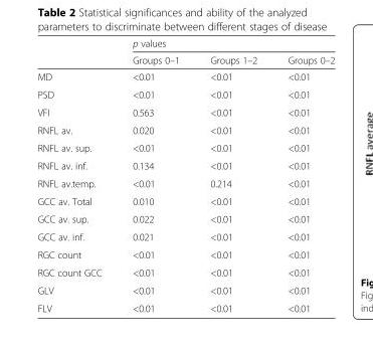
<table><thead><tr><td rowspan="2"></td><td colspan="3">p values</td></tr><tr><td>Groups 0–1</td><td>Groups 1–2</td><td>Groups 0–2</td></tr></thead><tbody><tr><td>MD</td><td>&lt;0.01</td><td>&lt;0.01</td><td>&lt;0.01</td></tr><tr><td>PSD</td><td>&lt;0.01</td><td>&lt;0.01</td><td>&lt;0.01</td></tr><tr><td>VFI</td><td>0.563</td><td>&lt;0.01</td><td>&lt;0.01</td></tr><tr><td>RNFL av.</td><td>0.020</td><td>&lt;0.01</td><td>&lt;0.01</td></tr><tr><td>RNFL av. sup.</td><td>&lt;0.01</td><td>&lt;0.01</td><td>&lt;0.01</td></tr><tr><td>RNFL av. inf.</td><td>0.134</td><td>&lt;0.01</td><td>&lt;0.01</td></tr><tr><td>RNFL av.temp.</td><td>&lt;0.01</td><td>0.214</td><td>&lt;0.01</td></tr><tr><td>GCC av. Total</td><td>0.010</td><td>&lt;0.01</td><td>&lt;0.01</td></tr><tr><td>GCC av. sup.</td><td>0.022</td><td>&lt;0.01</td><td>&lt;0.01</td></tr><tr><td>GCC av. inf.</td><td>0.021</td><td>&lt;0.01</td><td>&lt;0.01</td></tr><tr><td>RGC count</td><td>&lt;0.01</td><td>&lt;0.01</td><td>&lt;0.01</td></tr><tr><td>RGC count GCC</td><td>&lt;0.01</td><td>&lt;0.01</td><td>&lt;0.01</td></tr><tr><td>GLV</td><td>&lt;0.01</td><td>&lt;0.01</td><td>&lt;0.01</td></tr><tr><td>FLV</td><td>&lt;0.01</td><td>&lt;0.01</td><td>&lt;0.01</td></tr></tbody></table>